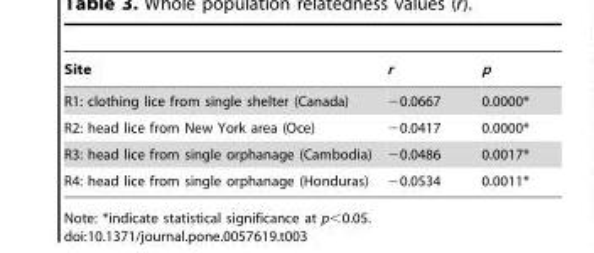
<table><thead><tr><td>Site</td><td>r</td><td>p</td></tr></thead><tbody><tr><td>R1: clothing lice from single shelter (Canada)</td><td>−0.0667</td><td>0.0000*</td></tr><tr><td>R2: head lice from New York area (Oce)</td><td>−0.0417</td><td>0.0000*</td></tr><tr><td>R3: head lice from single orphanage (Cambodia)</td><td>−0.0486</td><td>0.0017*</td></tr><tr><td>R4: head lice from single orphanage (Honduras)</td><td>−0.0534</td><td>0.0011*</td></tr></tbody></table>